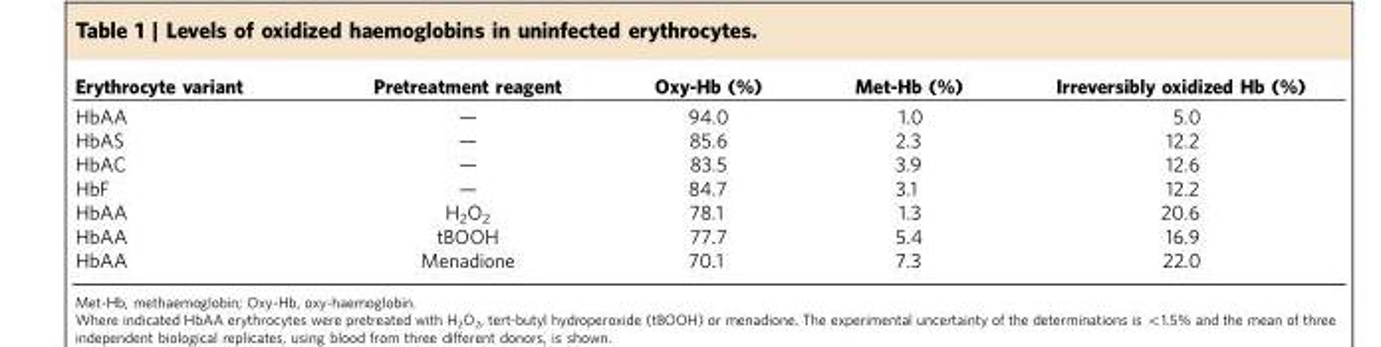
<table><thead><tr><td>Erythrocyte variant</td><td>Pretreatment reagent</td><td>Oxy-Hb (%)</td><td>Met-Hb (%)</td><td>Irreversibly oxidized Hb (%)</td></tr></thead><tbody><tr><td>HbAA</td><td>—</td><td>94.0</td><td>1.0</td><td>5.0</td></tr><tr><td>HbAS</td><td>—</td><td>85.6</td><td>2.3</td><td>12.2</td></tr><tr><td>HbAC</td><td>—</td><td>83.5</td><td>3.9</td><td>12.6</td></tr><tr><td>HbF</td><td>—</td><td>84.7</td><td>3.1</td><td>12.2</td></tr><tr><td>HbAA</td><td>H<sub>2</sub>O<sub>2</sub></td><td>78.1</td><td>1.3</td><td>20.6</td></tr><tr><td>HbAA</td><td>tBOOH</td><td>77.7</td><td>5.4</td><td>16.9</td></tr><tr><td>HbAA</td><td>Menadione</td><td>70.1</td><td>7.3</td><td>22.0</td></tr></tbody></table>